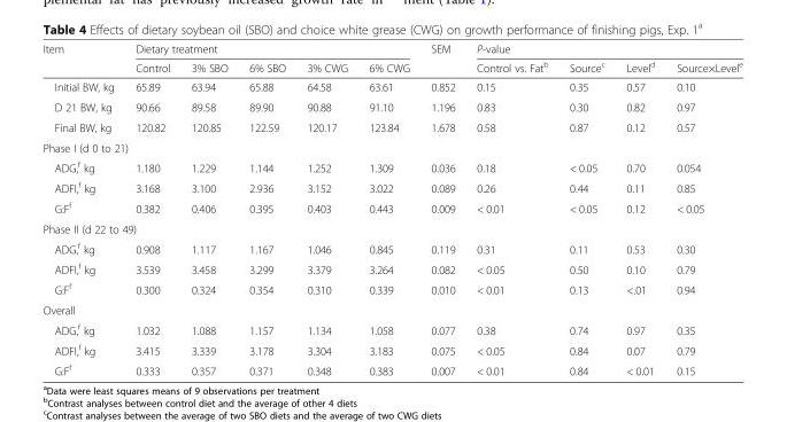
<table><thead><tr><td rowspan="2">Item</td><td colspan="5">Dietary treatment</td><td rowspan="2">SEM</td><td colspan="4">P-value</td></tr><tr><td>Control</td><td>3% SBO</td><td>6% SBO</td><td>3% CWG</td><td>6% CWG</td><td>Control vs. Fat<sup>b</sup></td><td>Source<sup>c</sup></td><td>Level<sup>d</sup></td><td>Source×Level<sup>e</sup></td></tr></thead><tbody><tr><td>Initial BW, kg</td><td>65.89</td><td>63.94</td><td>65.88</td><td>64.58</td><td>63.61</td><td>0.852</td><td>0.15</td><td>0.35</td><td>0.57</td><td>0.10</td></tr><tr><td>D 21 BW, kg</td><td>90.66</td><td>89.58</td><td>89.90</td><td>90.88</td><td>91.10</td><td>1.196</td><td>0.83</td><td>0.30</td><td>0.82</td><td>0.97</td></tr><tr><td>Final BW, kg</td><td>120.82</td><td>120.85</td><td>122.59</td><td>120.17</td><td>123.84</td><td>1.678</td><td>0.58</td><td>0.87</td><td>0.12</td><td>0.57</td></tr><tr><td colspan="11">Phase I (d 0 to 21)</td></tr><tr><td>ADG,<sup>f</sup> kg</td><td>1.180</td><td>1.229</td><td>1.144</td><td>1.252</td><td>1.309</td><td>0.036</td><td>0.18</td><td>&lt; 0.05</td><td>0.70</td><td>0.054</td></tr><tr><td>ADFI,<sup>f</sup> kg</td><td>3.168</td><td>3.100</td><td>2.936</td><td>3.152</td><td>3.022</td><td>0.089</td><td>0.26</td><td>0.44</td><td>0.11</td><td>0.85</td></tr><tr><td>G:F<sup>f</sup></td><td>0.382</td><td>0.406</td><td>0.395</td><td>0.403</td><td>0.443</td><td>0.009</td><td>&lt; 0.01</td><td>&lt; 0.05</td><td>0.12</td><td>&lt; 0.05</td></tr><tr><td colspan="11">Phase II (d 22 to 49)</td></tr><tr><td>ADG,<sup>f</sup> kg</td><td>0.908</td><td>1.117</td><td>1.167</td><td>1.046</td><td>0.845</td><td>0.119</td><td>0.31</td><td>0.11</td><td>0.53</td><td>0.30</td></tr><tr><td>ADFI,<sup>f</sup> kg</td><td>3.539</td><td>3.458</td><td>3.299</td><td>3.379</td><td>3.264</td><td>0.082</td><td>&lt; 0.05</td><td>0.50</td><td>0.10</td><td>0.79</td></tr><tr><td>G:F<sup>f</sup></td><td>0.300</td><td>0.324</td><td>0.354</td><td>0.310</td><td>0.339</td><td>0.010</td><td>&lt; 0.01</td><td>0.13</td><td>&lt;.01</td><td>0.94</td></tr><tr><td colspan="11">Overall</td></tr><tr><td>ADG,<sup>f</sup> kg</td><td>1.032</td><td>1.088</td><td>1.157</td><td>1.134</td><td>1.058</td><td>0.077</td><td>0.38</td><td>0.74</td><td>0.97</td><td>0.35</td></tr><tr><td>ADFI,<sup>f</sup> kg</td><td>3.415</td><td>3.339</td><td>3.178</td><td>3.304</td><td>3.183</td><td>0.075</td><td>&lt; 0.05</td><td>0.84</td><td>0.07</td><td>0.79</td></tr><tr><td>G:F<sup>f</sup></td><td>0.333</td><td>0.357</td><td>0.371</td><td>0.348</td><td>0.383</td><td>0.007</td><td>&lt; 0.01</td><td>0.84</td><td>&lt; 0.01</td><td>0.15</td></tr></tbody></table>